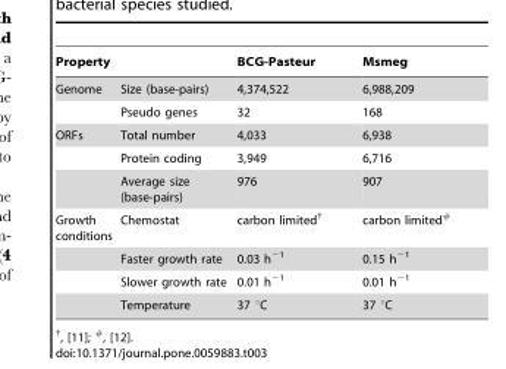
<table><thead><tr><td colspan="2">Property</td><td rowspan="2">BCG-Pasteur 4,374,522</td><td rowspan="2">Msmeg 6,988,209</td></tr><tr><td>Genome</td><td>Size (base-pairs)</td></tr></thead><tbody><tr><td></td><td>Pseudo genes</td><td>32</td><td>168</td></tr><tr><td rowspan="3">ORFs</td><td>Total number</td><td>4,033</td><td>6,938</td></tr><tr><td>Protein coding</td><td>3,949</td><td>6,716</td></tr><tr><td>Average size (base-pairs)</td><td>976</td><td>907</td></tr><tr><td rowspan="4">Growth conditions</td><td>Chemostat</td><td>carbon limited†</td><td>carbon limited<sup>#</sup></td></tr><tr><td>Faster growth rate</td><td>0.03 h<sup>−1</sup></td><td>0.15 h<sup>−1</sup></td></tr><tr><td>Slower growth rate</td><td>0.01 h<sup>−1</sup></td><td>0.01 h<sup>−1</sup></td></tr><tr><td>Temperature</td><td>37 °C</td><td>37 °C</td></tr></tbody></table>